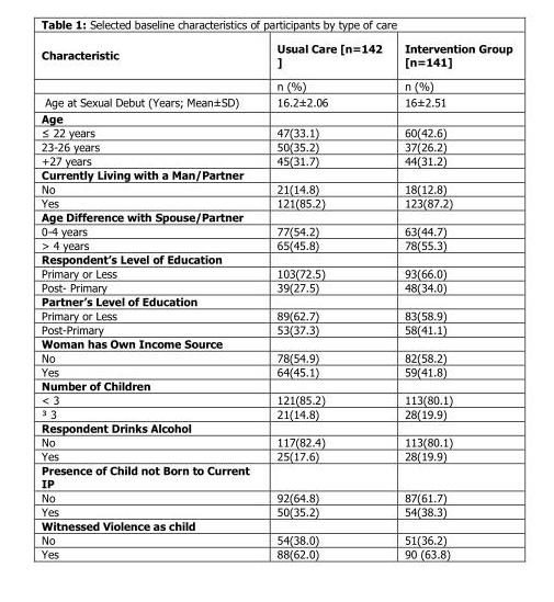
<table><thead><tr><td>Characteristic</td><td>Usual Care [n=142 ]</td><td>Intervention Group [n=141]</td></tr></thead><tbody><tr><td></td><td>n (%)</td><td>n (%)</td></tr><tr><td>Age at Sexual Debut (Years; Mean±SD)</td><td>16.2±2.06</td><td>16±2.51</td></tr><tr><td colspan="3">Age</td></tr><tr><td>≤ 22 years</td><td>47(33.1)</td><td>60(42.6)</td></tr><tr><td>23-26 years</td><td>50(35.2)</td><td>37(26.2)</td></tr><tr><td>+27 years</td><td>45(31.7)</td><td>44(31.2)</td></tr><tr><td colspan="3">Currently Living with a Man/Partner</td></tr><tr><td>No</td><td>21(14.8)</td><td>18(12.8)</td></tr><tr><td>Yes</td><td>121(85.2)</td><td>123(87.2)</td></tr><tr><td colspan="3">Age Difference with Spouse/Partner</td></tr><tr><td>0-4 years</td><td>77(54.2)</td><td>63(44.7)</td></tr><tr><td>&gt; 4 years</td><td>65(45.8)</td><td>78(55.3)</td></tr><tr><td colspan="3">Respondent’s Level of Education</td></tr><tr><td>Primary or Less</td><td>103(72.5)</td><td>93(66.0)</td></tr><tr><td>Post- Primary</td><td>39(27.5)</td><td>48(34.0)</td></tr><tr><td colspan="3">Partner’s Level of Education</td></tr><tr><td>Primary or Less</td><td>89(62.7)</td><td>83(58.9)</td></tr><tr><td>Post-Primary</td><td>53(37.3)</td><td>58(41.1)</td></tr><tr><td colspan="3">Woman has Own Income Source</td></tr><tr><td>No</td><td>78(54.9)</td><td>82(58.2)</td></tr><tr><td>Yes</td><td>64(45.1)</td><td>59(41.8)</td></tr><tr><td colspan="3">Number of Children</td></tr><tr><td>&lt; 3</td><td>121(85.2)</td><td>113(80.1)</td></tr><tr><td>³ 3</td><td>21(14.8)</td><td>28(19.9)</td></tr><tr><td colspan="3">Respondent Drinks Alcohol</td></tr><tr><td>No</td><td>117(82.4)</td><td>113(80.1)</td></tr><tr><td>Yes</td><td>25(17.6)</td><td>28(19.9)</td></tr><tr><td colspan="3">Presence of Child not Born to Current IP</td></tr><tr><td>No</td><td>92(64.8)</td><td>87(61.7)</td></tr><tr><td>Yes</td><td>50(35.2)</td><td>54(38.3)</td></tr><tr><td colspan="3">Witnessed Violence as child</td></tr><tr><td>No</td><td>54(38.0)</td><td>51(36.2)</td></tr><tr><td>Yes</td><td>88(62.0)</td><td>90 (63.8)</td></tr></tbody></table>